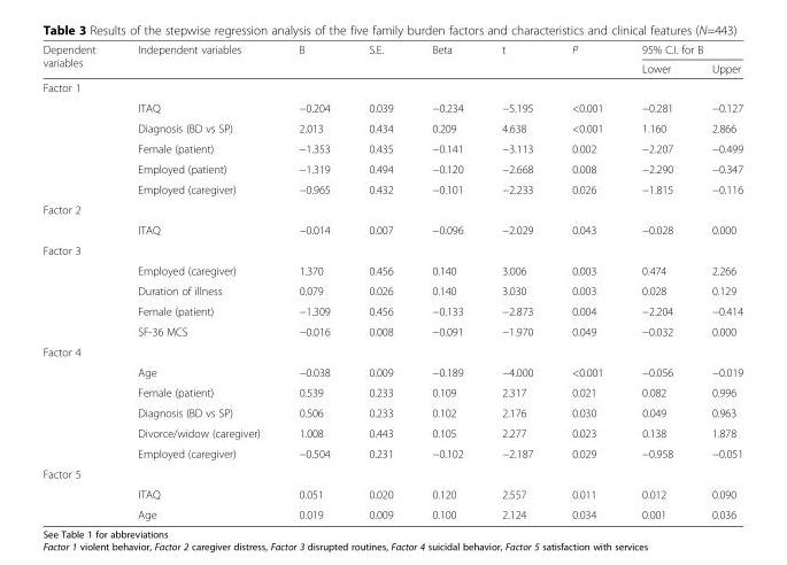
<table><thead><tr><td rowspan="2">Dependent variables</td><td rowspan="2">Independent variables</td><td rowspan="2">B</td><td rowspan="2">S.E.</td><td rowspan="2">Beta</td><td rowspan="2">t</td><td rowspan="2">P</td><td colspan="2">95% C.I. for B</td></tr><tr><td>Lower</td><td>Upper</td></tr></thead><tbody><tr><td colspan="9">Factor 1</td></tr><tr><td></td><td>ITAQ</td><td>−0.204</td><td>0.039</td><td>−0.234</td><td>−5.195</td><td>&lt;0.001</td><td>−0.281</td><td>−0.127</td></tr><tr><td></td><td>Diagnosis (BD vs SP)</td><td>2.013</td><td>0.434</td><td>0.209</td><td>4.638</td><td>&lt;0.001</td><td>1.160</td><td>2.866</td></tr><tr><td></td><td>Female (patient)</td><td>−1.353</td><td>0.435</td><td>−0.141</td><td>−3.113</td><td>0.002</td><td>−2.207</td><td>−0.499</td></tr><tr><td></td><td>Employed (patient)</td><td>−1.319</td><td>0.494</td><td>−0.120</td><td>−2.668</td><td>0.008</td><td>−2.290</td><td>−0.347</td></tr><tr><td></td><td>Employed (caregiver)</td><td>−0.965</td><td>0.432</td><td>−0.101</td><td>−2.233</td><td>0.026</td><td>−1.815</td><td>−0.116</td></tr><tr><td colspan="9">Factor 2</td></tr><tr><td></td><td>ITAQ</td><td>−0.014</td><td>0.007</td><td>−0.096</td><td>−2.029</td><td>0.043</td><td>−0.028</td><td>0.000</td></tr><tr><td colspan="9">Factor 3</td></tr><tr><td></td><td>Employed (caregiver)</td><td>1.370</td><td>0.456</td><td>0.140</td><td>3.006</td><td>0.003</td><td>0.474</td><td>2.266</td></tr><tr><td></td><td>Duration of illness</td><td>0.079</td><td>0.026</td><td>0.140</td><td>3.030</td><td>0.003</td><td>0.028</td><td>0.129</td></tr><tr><td></td><td>Female (patient)</td><td>−1.309</td><td>0.456</td><td>−0.133</td><td>−2.873</td><td>0.004</td><td>−2.204</td><td>−0.414</td></tr><tr><td></td><td>SF-36 MCS</td><td>−0.016</td><td>0.008</td><td>−0.091</td><td>−1.970</td><td>0.049</td><td>−0.032</td><td>0.000</td></tr><tr><td colspan="9">Factor 4</td></tr><tr><td></td><td>Age</td><td>−0.038</td><td>0.009</td><td>−0.189</td><td>−4.000</td><td>&lt;0.001</td><td>−0.056</td><td>−0.019</td></tr><tr><td></td><td>Female (patient)</td><td>0.539</td><td>0.233</td><td>0.109</td><td>2.317</td><td>0.021</td><td>0.082</td><td>0.996</td></tr><tr><td></td><td>Diagnosis (BD vs SP)</td><td>0.506</td><td>0.233</td><td>0.102</td><td>2.176</td><td>0.030</td><td>0.049</td><td>0.963</td></tr><tr><td></td><td>Divorce/widow (caregiver)</td><td>1.008</td><td>0.443</td><td>0.105</td><td>2.277</td><td>0.023</td><td>0.138</td><td>1.878</td></tr><tr><td></td><td>Employed (caregiver)</td><td>−0.504</td><td>0.231</td><td>−0.102</td><td>−2.187</td><td>0.029</td><td>−0.958</td><td>−0.051</td></tr><tr><td colspan="9">Factor 5</td></tr><tr><td></td><td>ITAQ</td><td>0.051</td><td>0.020</td><td>0.120</td><td>2.557</td><td>0.011</td><td>0.012</td><td>0.090</td></tr><tr><td></td><td>Age</td><td>0.019</td><td>0.009</td><td>0.100</td><td>2.124</td><td>0.034</td><td>0.001</td><td>0.036</td></tr></tbody></table>